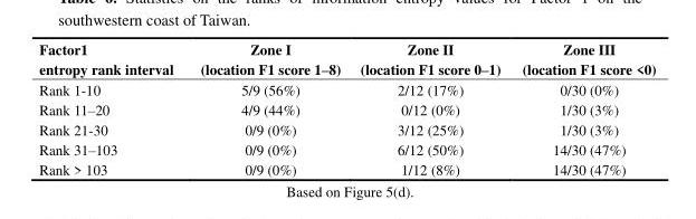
<table><thead><tr><td>Factor1 entropy rank interval</td><td>Zone I (location F1 score 1–8)</td><td>Zone II (location F1 score 0–1)</td><td>Zone III (location F1 score &lt;0)</td></tr></thead><tbody><tr><td>Rank 1-10</td><td>5/9 (56%)</td><td>2/12 (17%)</td><td>0/30 (0%)</td></tr><tr><td>Rank 11–20</td><td>4/9 (44%)</td><td>0/12 (0%)</td><td>1/30 (3%)</td></tr><tr><td>Rank 21-30</td><td>0/9 (0%)</td><td>3/12 (25%)</td><td>1/30 (3%)</td></tr><tr><td>Rank 31–103</td><td>0/9 (0%)</td><td>6/12 (50%)</td><td>14/30 (47%)</td></tr><tr><td>Rank &gt; 103</td><td>0/9 (0%)</td><td>1/12 (8%)</td><td>14/30 (47%)</td></tr></tbody></table>